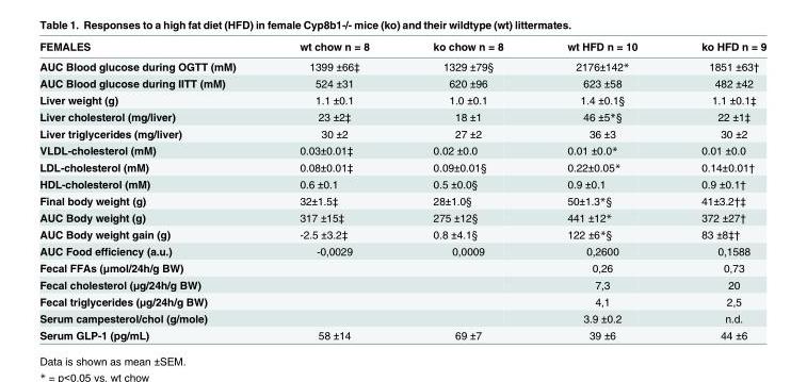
<table><thead><tr><td>FEMALES</td><td>wt chow n = 8</td><td>ko chow n = 8</td><td>wt HFD n = 10</td><td>ko HFD n = 9</td></tr></thead><tbody><tr><td>AUC Blood glucose during OGTT (mM)</td><td>1399 ±66‡</td><td>1329 ±79§</td><td>2176±142*</td><td>1851 ±63†</td></tr><tr><td>AUC Blood glucose during IITT (mM)</td><td>524 ±31</td><td>620 ±96</td><td>623 ±58</td><td>482 ±42</td></tr><tr><td>Liver weight (g)</td><td>1.1 ±0.1</td><td>1.0 ±0.1</td><td>1.4 ±0.1§</td><td>1.1 ±0.1‡</td></tr><tr><td>Liver cholesterol (mg/liver)</td><td>23 ±2‡</td><td>18 ±1</td><td>46 ±5*§</td><td>22 ±1‡</td></tr><tr><td>Liver triglycerides (mg/liver)</td><td>30 ±2</td><td>27 ±2</td><td>36 ±3</td><td>30 ±2</td></tr><tr><td>VLDL-cholesterol (mM)</td><td>0.03±0.01‡</td><td>0.02 ±0.0</td><td>0.01 ±0.0*</td><td>0.01 ±0.0</td></tr><tr><td>LDL-cholesterol (mM)</td><td>0.08±0.01‡</td><td>0.09±0.01§</td><td>0.22±0.05*</td><td>0.14±0.01†</td></tr><tr><td>HDL-cholesterol (mM)</td><td>0.6 ±0.1</td><td>0.5 ±0.0§</td><td>0.9 ±0.1</td><td>0.9 ±0.1†</td></tr><tr><td>Final body weight (g)</td><td>32±1.5‡</td><td>28±1.0§</td><td>50±1.3*§</td><td>41±3.2†‡</td></tr><tr><td>AUC Body weight (g)</td><td>317 ±15‡</td><td>275 ±12§</td><td>441 ±12*</td><td>372 ±27†</td></tr><tr><td>AUC Body weight gain (g)</td><td>-2.5 ±3.2‡</td><td>0.8 ±4.1§</td><td>122 ±6*§</td><td>83 ±8‡†</td></tr><tr><td>AUC Food efficiency (a.u.)</td><td>-0,0029</td><td>0,0009</td><td>0,2600</td><td>0,1588</td></tr><tr><td>Fecal FFAs (μmol/24h/g BW)</td><td></td><td></td><td>0,26</td><td>0,73</td></tr><tr><td>Fecal cholesterol (μg/24h/g BW)</td><td></td><td></td><td>7,3</td><td>20</td></tr><tr><td>Fecal triglycerides (μg/24h/g BW)</td><td></td><td></td><td>4,1</td><td>2,5</td></tr><tr><td>Serum campesterol/chol (g/mole)</td><td></td><td></td><td>3.9 ±0.2</td><td>n.d.</td></tr><tr><td>Serum GLP-1 (pg/mL)</td><td>58 ±14</td><td>69 ±7</td><td>39 ±6</td><td>44 ±6</td></tr></tbody></table>